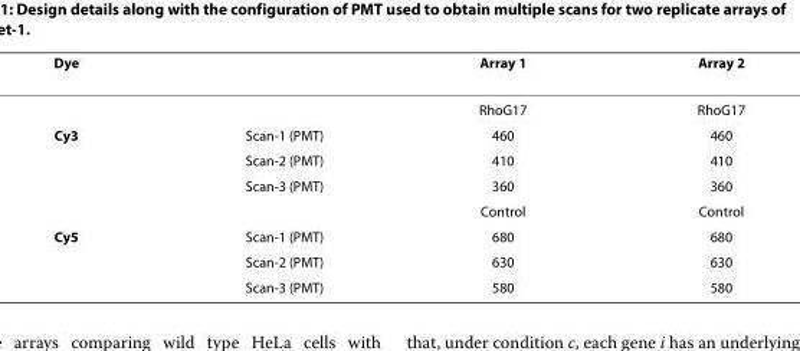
<table><thead><tr><td>Dye</td><td></td><td>Array 1</td><td>Array 2</td></tr></thead><tbody><tr><td></td><td></td><td>RhoG17</td><td>RhoG17</td></tr><tr><td rowspan="4">Cy3</td><td>Scan-1 (PMT)</td><td>460</td><td>460</td></tr><tr><td>Scan-2 (PMT)</td><td>410</td><td>410</td></tr><tr><td>Scan-3 (PMT)</td><td>360</td><td>360</td></tr><tr><td></td><td>Control</td><td>Control</td></tr><tr><td rowspan="3">Cy5</td><td>Scan-1 (PMT)</td><td>680</td><td>680</td></tr><tr><td>Scan-2 (PMT)</td><td>630</td><td>630</td></tr><tr><td>Scan-3 (PMT)</td><td>580</td><td>580</td></tr></tbody></table>